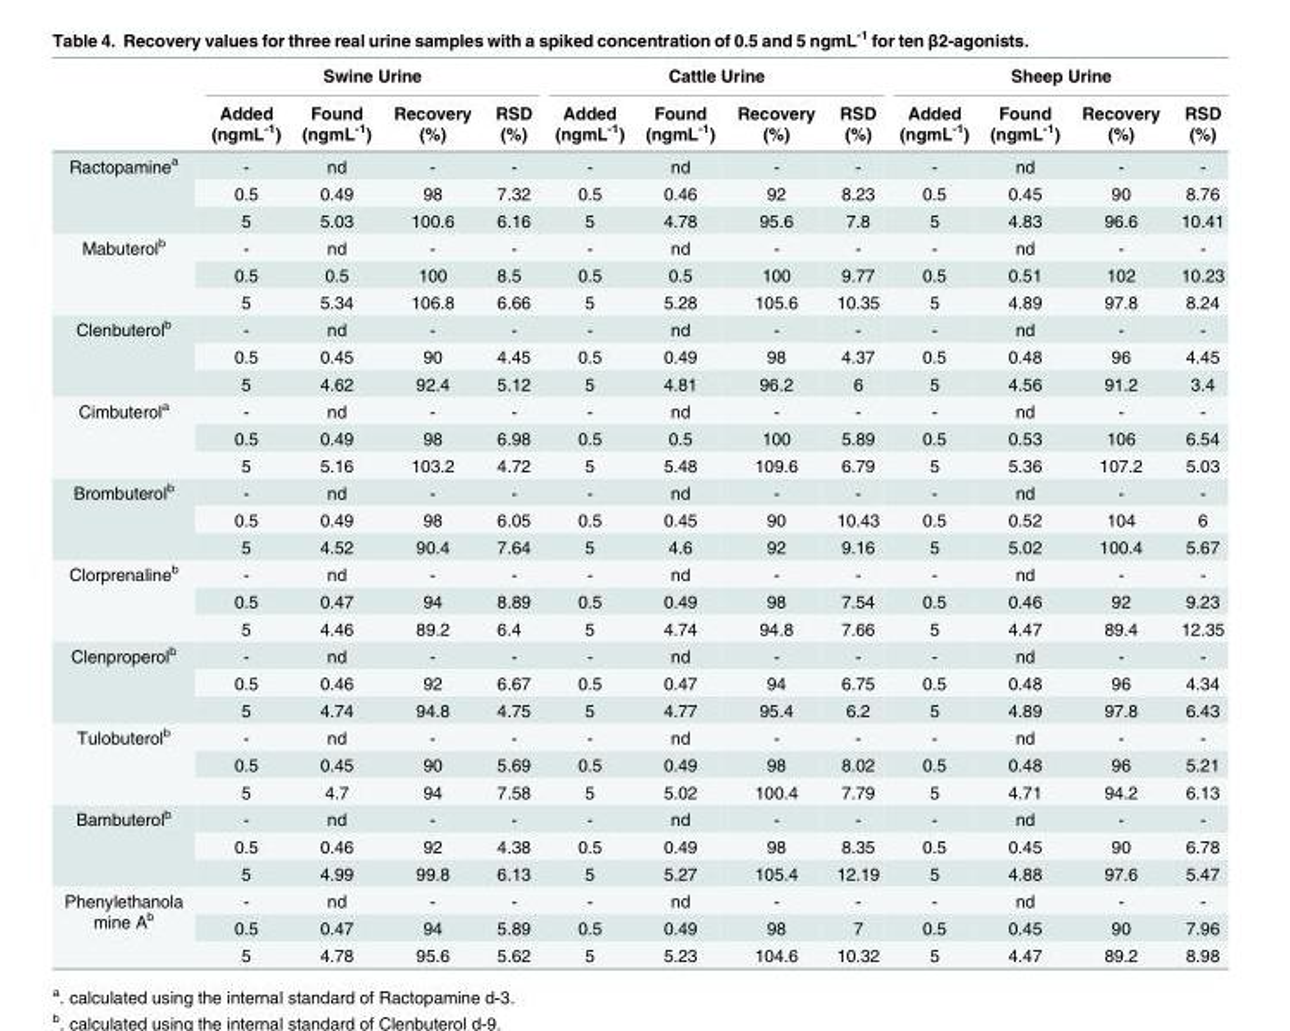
<table><thead><tr><td rowspan="2"></td><td colspan="4">Swine Urine</td><td colspan="4">Cattle Urine</td><td colspan="4">Sheep Urine</td></tr><tr><td>Added (ngmL<sup>-1</sup>)</td><td>Found (ngmL<sup>-1</sup>)</td><td>Recovery (%)</td><td>RSD (%)</td><td>Added (ngmL<sup>-1</sup>)</td><td>Found (ngmL<sup>-1</sup>)</td><td>Recovery (%)</td><td>RSD (%)</td><td>Added (ngmL<sup>-1</sup>)</td><td>Found (ngmL<sup>-1</sup>)</td><td>Recovery (%)</td><td>RSD (%)</td></tr></thead><tbody><tr><td rowspan="3">Ractopamine<sup>a</sup></td><td>-</td><td>nd</td><td>-</td><td>-</td><td>-</td><td>nd</td><td>-</td><td>-</td><td>-</td><td>nd</td><td>-</td><td>-</td></tr><tr><td>0.5</td><td>0.49</td><td>98</td><td>7.32</td><td>0.5</td><td>0.46</td><td>92</td><td>8.23</td><td>0.5</td><td>0.45</td><td>90</td><td>8.76</td></tr><tr><td>5</td><td>5.03</td><td>100.6</td><td>6.16</td><td>5</td><td>4.78</td><td>95.6</td><td>7.8</td><td>5</td><td>4.83</td><td>96.6</td><td>10.41</td></tr><tr><td rowspan="3">Mabuterol<sup>b</sup></td><td>-</td><td>nd</td><td>-</td><td>-</td><td>-</td><td>nd</td><td>-</td><td>-</td><td>-</td><td>nd</td><td>-</td><td>-</td></tr><tr><td>0.5</td><td>0.5</td><td>100</td><td>8.5</td><td>0.5</td><td>0.5</td><td>100</td><td>9.77</td><td>0.5</td><td>0.51</td><td>102</td><td>10.23</td></tr><tr><td>5</td><td>5.34</td><td>106.8</td><td>6.66</td><td>5</td><td>5.28</td><td>105.6</td><td>10.35</td><td>5</td><td>4.89</td><td>97.8</td><td>8.24</td></tr><tr><td rowspan="3">Clenbuterol<sup>b</sup></td><td>-</td><td>nd</td><td>-</td><td>-</td><td>-</td><td>nd</td><td>-</td><td>-</td><td>-</td><td>nd</td><td>-</td><td>-</td></tr><tr><td>0.5</td><td>0.45</td><td>90</td><td>4.45</td><td>0.5</td><td>0.49</td><td>98</td><td>4.37</td><td>0.5</td><td>0.48</td><td>96</td><td>4.45</td></tr><tr><td>5</td><td>4.62</td><td>92.4</td><td>5.12</td><td>5</td><td>4.81</td><td>96.2</td><td>6</td><td>5</td><td>4.56</td><td>91.2</td><td>3.4</td></tr><tr><td rowspan="3">Cimbuterol<sup>a</sup></td><td>-</td><td>nd</td><td>-</td><td>-</td><td>-</td><td>nd</td><td>-</td><td>-</td><td>-</td><td>nd</td><td>-</td><td>-</td></tr><tr><td>0.5</td><td>0.49</td><td>98</td><td>6.98</td><td>0.5</td><td>0.5</td><td>100</td><td>5.89</td><td>0.5</td><td>0.53</td><td>106</td><td>6.54</td></tr><tr><td>5</td><td>5.16</td><td>103.2</td><td>4.72</td><td>5</td><td>5.48</td><td>109.6</td><td>6.79</td><td>5</td><td>5.36</td><td>107.2</td><td>5.03</td></tr><tr><td rowspan="3">Brombuterol<sup>b</sup></td><td>-</td><td>nd</td><td>-</td><td>-</td><td>-</td><td>nd</td><td>-</td><td>-</td><td>-</td><td>nd</td><td>-</td><td>-</td></tr><tr><td>0.5</td><td>0.49</td><td>98</td><td>6.05</td><td>0.5</td><td>0.45</td><td>90</td><td>10.43</td><td>0.5</td><td>0.52</td><td>104</td><td>6</td></tr><tr><td>5</td><td>4.52</td><td>90.4</td><td>7.64</td><td>5</td><td>4.6</td><td>92</td><td>9.16</td><td>5</td><td>5.02</td><td>100.4</td><td>5.67</td></tr><tr><td rowspan="3">Clorprenaline<sup>b</sup></td><td>-</td><td>nd</td><td>-</td><td>-</td><td>-</td><td>nd</td><td>-</td><td>-</td><td>-</td><td>nd</td><td>-</td><td>-</td></tr><tr><td>0.5</td><td>0.47</td><td>94</td><td>8.89</td><td>0.5</td><td>0.49</td><td>98</td><td>7.54</td><td>0.5</td><td>0.46</td><td>92</td><td>9.23</td></tr><tr><td>5</td><td>4.46</td><td>89.2</td><td>6.4</td><td>5</td><td>4.74</td><td>94.8</td><td>7.66</td><td>5</td><td>4.47</td><td>89.4</td><td>12.35</td></tr><tr><td rowspan="3">Clenproperol<sup>b</sup></td><td>-</td><td>nd</td><td>-</td><td>-</td><td>-</td><td>nd</td><td>-</td><td>-</td><td>-</td><td>nd</td><td>-</td><td>-</td></tr><tr><td>0.5</td><td>0.46</td><td>92</td><td>6.67</td><td>0.5</td><td>0.47</td><td>94</td><td>6.75</td><td>0.5</td><td>0.48</td><td>96</td><td>4.34</td></tr><tr><td>5</td><td>4.74</td><td>94.8</td><td>4.75</td><td>5</td><td>4.77</td><td>95.4</td><td>6.2</td><td>5</td><td>4.89</td><td>97.8</td><td>6.43</td></tr><tr><td rowspan="3">Tulobuterol<sup>b</sup></td><td>-</td><td>nd</td><td>-</td><td>-</td><td>-</td><td>nd</td><td>-</td><td>-</td><td>-</td><td>nd</td><td>-</td><td>-</td></tr><tr><td>0.5</td><td>0.45</td><td>90</td><td>5.69</td><td>0.5</td><td>0.49</td><td>98</td><td>8.02</td><td>0.5</td><td>0.48</td><td>96</td><td>5.21</td></tr><tr><td>5</td><td>4.7</td><td>94</td><td>7.58</td><td>5</td><td>5.02</td><td>100.4</td><td>7.79</td><td>5</td><td>4.71</td><td>94.2</td><td>6.13</td></tr><tr><td rowspan="3">Bambuterol<sup>b</sup></td><td>-</td><td>nd</td><td>-</td><td>-</td><td>-</td><td>nd</td><td>-</td><td>-</td><td>-</td><td>nd</td><td>-</td><td>-</td></tr><tr><td>0.5</td><td>0.46</td><td>92</td><td>4.38</td><td>0.5</td><td>0.49</td><td>98</td><td>8.35</td><td>0.5</td><td>0.45</td><td>90</td><td>6.78</td></tr><tr><td>5</td><td>4.99</td><td>99.8</td><td>6.13</td><td>5</td><td>5.27</td><td>105.4</td><td>12.19</td><td>5</td><td>4.88</td><td>97.6</td><td>5.47</td></tr><tr><td rowspan="3">Phenylethanola mine A<sup>b</sup></td><td>-</td><td>nd</td><td>-</td><td>-</td><td>-</td><td>nd</td><td>-</td><td>-</td><td>-</td><td>nd</td><td>-</td><td>-</td></tr><tr><td>0.5</td><td>0.47</td><td>94</td><td>5.89</td><td>0.5</td><td>0.49</td><td>98</td><td>7</td><td>0.5</td><td>0.45</td><td>90</td><td>7.96</td></tr><tr><td>5</td><td>4.78</td><td>95.6</td><td>5.62</td><td>5</td><td>5.23</td><td>104.6</td><td>10.32</td><td>5</td><td>4.47</td><td>89.2</td><td>8.98</td></tr></tbody></table>